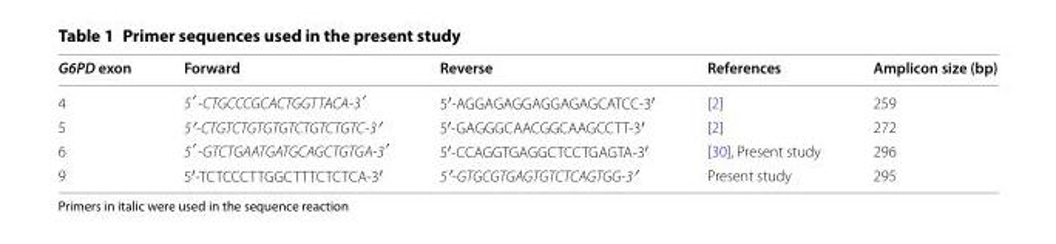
<table><thead><tr><td>G6PD exon</td><td>Forward</td><td>Reverse</td><td>References</td><td>Amplicon size (bp)</td></tr></thead><tbody><tr><td>4</td><td>5′-CTGCCCGCACTGGTTACA-3′</td><td>5′-AGGAGAGGAGGAGAGCATCC-3′</td><td>[2]</td><td>259</td></tr><tr><td>5</td><td>5′-CTGTCTGTGTGTCTGTCTGTC-3′</td><td>5′-GAGGGCAACGGCAAGCCTT-3′</td><td>[2]</td><td>272</td></tr><tr><td>6</td><td>5′-GTCTGAATGATGCAGCTGTGA-3′</td><td>5′-CCAGGTGAGGCTCCTGAGTA-3′</td><td>[30], Present study</td><td>296</td></tr><tr><td>9</td><td>5′-TCTCCCTTGGCTTTCTCTCA-3′</td><td>5′-GTGCGTGAGTGTCTCAGTGG-3′</td><td>Present study</td><td>295</td></tr></tbody></table>